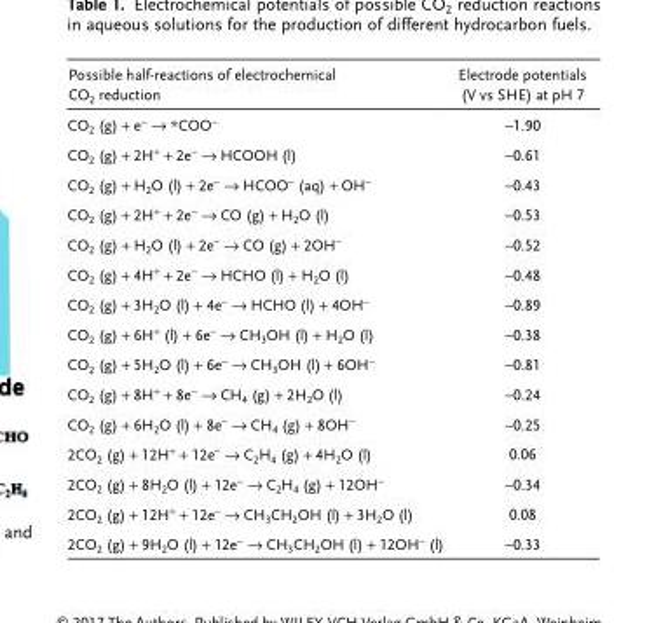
<table><thead><tr><td>Possible half-reactions of electrochemical CO<sub>2</sub> reduction</td><td>Electrode potentials (V vs SHE) at pH 7</td></tr></thead><tbody><tr><td>CO<sub>2</sub> (g) + e<sup>−</sup> → *COO<sup>−</sup></td><td>−1.90</td></tr><tr><td>CO<sub>2</sub> (g) + 2H<sup>+</sup> + 2e<sup>−</sup> → HCOOH (l)</td><td>−0.61</td></tr><tr><td>CO<sub>2</sub> (g) + H<sub>2</sub>O (l) + 2e<sup>−</sup> → HCOO<sup>−</sup> (aq) + OH<sup>−</sup></td><td>−0.43</td></tr><tr><td>CO<sub>2</sub> (g) + 2H<sup>+</sup> + 2e<sup>−</sup> → CO (g) + H<sub>2</sub>O (l)</td><td>−0.53</td></tr><tr><td>CO<sub>2</sub> (g) + H<sub>2</sub>O (l) + 2e<sup>−</sup> → CO (g) + 2OH<sup>−</sup></td><td>−0.52</td></tr><tr><td>CO<sub>2</sub> (g) + 4H<sup>+</sup> + 2e<sup>−</sup> → HCHO (l) + H<sub>2</sub>O (l)</td><td>−0.48</td></tr><tr><td>CO<sub>2</sub> (g) + 3H<sub>2</sub>O (l) + 4e<sup>−</sup> → HCHO (l) + 4OH<sup>−</sup></td><td>−0.89</td></tr><tr><td>CO<sub>2</sub> (g) + 6H<sup>+</sup> (l) + 6e<sup>−</sup> → CH<sub>3</sub>OH (l) + H<sub>2</sub>O (l)</td><td>−0.38</td></tr><tr><td>CO<sub>2</sub> (g) + 5H<sub>2</sub>O (l) + 6e<sup>−</sup> → CH<sub>3</sub>OH (l) + 6OH<sup>−</sup></td><td>−0.81</td></tr><tr><td>CO<sub>2</sub> (g) + 8H<sup>+</sup> + 8e<sup>−</sup> → CH<sub>4</sub> (g) + 2H<sub>2</sub>O (l)</td><td>−0.24</td></tr><tr><td>CO<sub>2</sub> (g) + 6H<sub>2</sub>O (l) + 8e<sup>−</sup> → CH<sub>4</sub> (g) + 8OH<sup>−</sup></td><td>−0.25</td></tr><tr><td>2CO<sub>2</sub> (g) + 12H<sup>+</sup> + 12e<sup>−</sup> → C<sub>2</sub>H<sub>4</sub> (g) + 4H<sub>2</sub>O (l)</td><td>0.06</td></tr><tr><td>2CO<sub>2</sub> (g) + 8H<sub>2</sub>O (l) + 12e<sup>−</sup> → C<sub>2</sub>H<sub>4</sub> (g) + 12OH<sup>−</sup></td><td>−0.34</td></tr><tr><td>2CO<sub>2</sub> (g) + 12H<sup>+</sup> + 12e<sup>−</sup> → CH<sub>3</sub>CH<sub>2</sub>OH (l) + 3H<sub>2</sub>O (l)</td><td>0.08</td></tr><tr><td>2CO<sub>2</sub> (g) + 9H<sub>2</sub>O (l) + 12e<sup>−</sup> → CH<sub>3</sub>CH<sub>2</sub>OH (l) + 12OH<sup>−</sup> (l)</td><td>−0.33</td></tr></tbody></table>